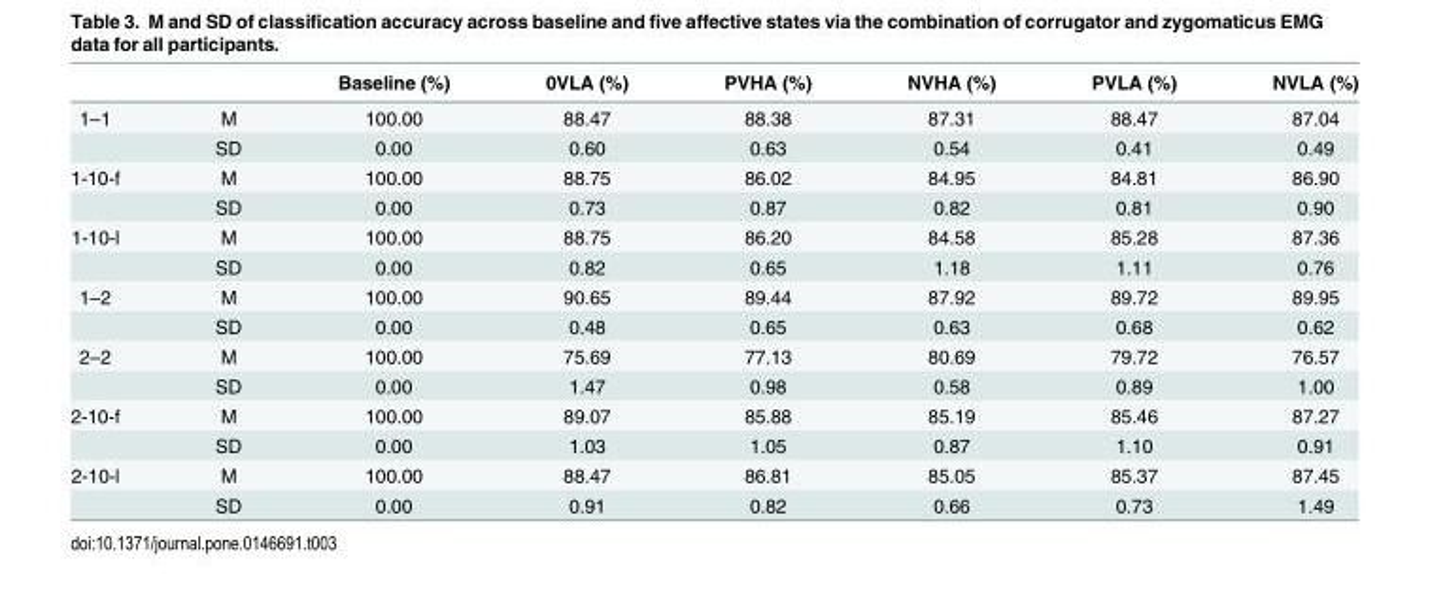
<table><thead><tr><td></td><td></td><td>Baseline (%)</td><td>0VLA (%)</td><td>PVHA (%)</td><td>NVHA (%)</td><td>PVLA (%)</td><td>NVLA (%)</td></tr></thead><tbody><tr><td rowspan="2">1–1</td><td>M</td><td>100.00</td><td>88.47</td><td>88.38</td><td>87.31</td><td>88.47</td><td>87.04</td></tr><tr><td>SD</td><td>0.00</td><td>0.60</td><td>0.63</td><td>0.54</td><td>0.41</td><td>0.49</td></tr><tr><td rowspan="2">1-10-f</td><td>M</td><td>100.00</td><td>88.75</td><td>86.02</td><td>84.95</td><td>84.81</td><td>86.90</td></tr><tr><td>SD</td><td>0.00</td><td>0.73</td><td>0.87</td><td>0.82</td><td>0.81</td><td>0.90</td></tr><tr><td rowspan="2">1-10-l</td><td>M</td><td>100.00</td><td>88.75</td><td>86.20</td><td>84.58</td><td>85.28</td><td>87.36</td></tr><tr><td>SD</td><td>0.00</td><td>0.82</td><td>0.65</td><td>1.18</td><td>1.11</td><td>0.76</td></tr><tr><td rowspan="2">1–2</td><td>M</td><td>100.00</td><td>90.65</td><td>89.44</td><td>87.92</td><td>89.72</td><td>89.95</td></tr><tr><td>SD</td><td>0.00</td><td>0.48</td><td>0.65</td><td>0.63</td><td>0.68</td><td>0.62</td></tr><tr><td rowspan="2">2–2</td><td>M</td><td>100.00</td><td>75.69</td><td>77.13</td><td>80.69</td><td>79.72</td><td>76.57</td></tr><tr><td>SD</td><td>0.00</td><td>1.47</td><td>0.98</td><td>0.58</td><td>0.89</td><td>1.00</td></tr><tr><td rowspan="2">2-10-f</td><td>M</td><td>100.00</td><td>89.07</td><td>85.88</td><td>85.19</td><td>85.46</td><td>87.27</td></tr><tr><td>SD</td><td>0.00</td><td>1.03</td><td>1.05</td><td>0.87</td><td>1.10</td><td>0.91</td></tr><tr><td rowspan="2">2-10-l</td><td>M</td><td>100.00</td><td>88.47</td><td>86.81</td><td>85.05</td><td>85.37</td><td>87.45</td></tr><tr><td>SD</td><td>0.00</td><td>0.91</td><td>0.82</td><td>0.66</td><td>0.73</td><td>1.49</td></tr></tbody></table>